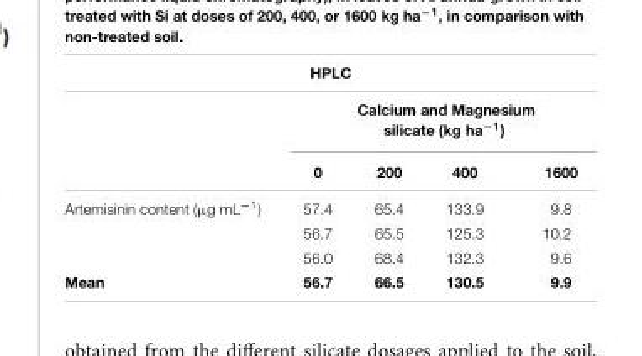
<table><thead><tr><td colspan="5">HPLC</td></tr><tr><td rowspan="2"></td><td colspan="4">Calcium and Magnesium silicate (kg ha<sup>−1</sup>)</td></tr><tr><td>0</td><td>200</td><td>400</td><td>1600</td></tr></thead><tbody><tr><td rowspan="3">Artemisinin content (µg mL<sup>−1</sup>)</td><td>57.4</td><td>65.4</td><td>133.9</td><td>9.8</td></tr><tr><td>56.7</td><td>65.5</td><td>125.3</td><td>10.2</td></tr><tr><td>56.0</td><td>68.4</td><td>132.3</td><td>9.6</td></tr><tr><td>Mean</td><td>56.7</td><td>66.5</td><td>130.5</td><td>9.9</td></tr></tbody></table>